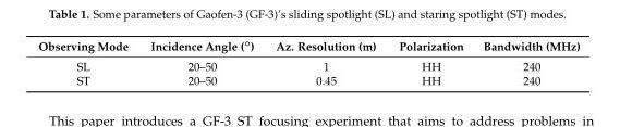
<table><thead><tr><td>Observing Mode</td><td>Incidence Angle (◦)</td><td>Az. Resolution (m)</td><td>Polarization</td><td>Bandwidth (MHz)</td></tr></thead><tbody><tr><td>SL</td><td>20–50</td><td>1</td><td>HH</td><td>240</td></tr><tr><td>ST</td><td>20–50</td><td>0.45</td><td>HH</td><td>240</td></tr></tbody></table>